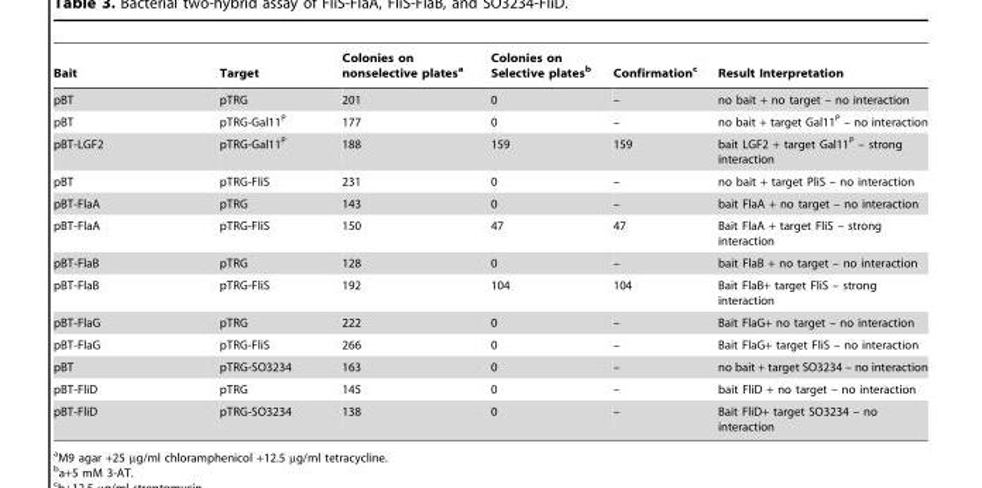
<table><thead><tr><td>Bait</td><td>Target</td><td>Colonies on nonselective plates<sup>a</sup></td><td>Colonies on Selective plates<sup>b</sup></td><td>Confirmation<sup>c</sup></td><td>Result Interpretation</td></tr></thead><tbody><tr><td>pBT</td><td>pTRG</td><td>201</td><td>0</td><td>–</td><td>no bait + no target – no interaction</td></tr><tr><td>pBT</td><td>pTRG-Gal11<sup>P</sup></td><td>177</td><td>0</td><td>–</td><td>no bait + target Gal11<sup>P</sup> – no interaction</td></tr><tr><td>pBT-LGF2</td><td>pTRG-Gal11<sup>P</sup></td><td>188</td><td>159</td><td>159</td><td>bait LGF2 + target Gal11<sup>P</sup> – strong interaction</td></tr><tr><td>pBT</td><td>pTRG-FliS</td><td>231</td><td>0</td><td>–</td><td>no bait + target PliS – no interaction</td></tr><tr><td>pBT-FlaA</td><td>pTRG</td><td>143</td><td>0</td><td>–</td><td>bait FlaA + no target – no interaction</td></tr><tr><td>pBT-FlaA</td><td>pTRG-FliS</td><td>150</td><td>47</td><td>47</td><td>Bait FlaA + target FliS – strong interaction</td></tr><tr><td>pBT-FlaB</td><td>pTRG</td><td>128</td><td>0</td><td>–</td><td>bait FlaB + no target – no interaction</td></tr><tr><td>pBT-FlaB</td><td>pTRG-FliS</td><td>192</td><td>104</td><td>104</td><td>Bait FlaB+ target FliS – strong interaction</td></tr><tr><td>pBT-FlaG</td><td>pTRG</td><td>222</td><td>0</td><td>–</td><td>Bait FlaG+ no target – no interaction</td></tr><tr><td>pBT-FlaG</td><td>pTRG-FliS</td><td>266</td><td>0</td><td>–</td><td>Bait FlaG+ target FliS – no interaction</td></tr><tr><td>pBT</td><td>pTRG-SO3234</td><td>163</td><td>0</td><td>–</td><td>no bait + target SO3234 – no interaction</td></tr><tr><td>pBT-FliD</td><td>pTRG</td><td>145</td><td>0</td><td>–</td><td>bait FliD + no target – no interaction</td></tr><tr><td>pBT-FliD</td><td>pTRG-SO3234</td><td>138</td><td>0</td><td>–</td><td>Bait FliD+ target SO3234 – no interaction</td></tr></tbody></table>